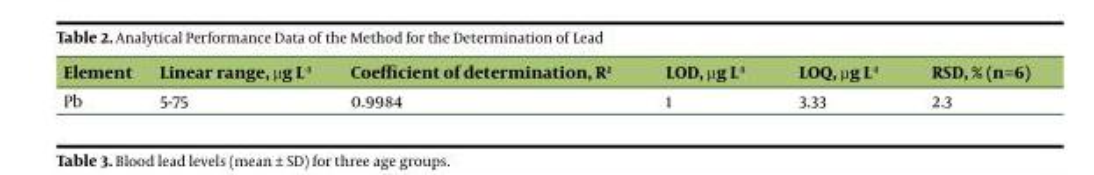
<table><thead><tr><td>Element</td><td>Linear range, µg L<sup>-1</sup></td><td>Coefficient of determination, R<sup>2</sup></td><td>LOD, µg L<sup>-1</sup></td><td>LOQ, µg L<sup>-1</sup></td><td>RSD, % (n=6)</td></tr></thead><tbody><tr><td>Pb</td><td>5-75</td><td>0.9984</td><td>1</td><td>3.33</td><td>2.3</td></tr></tbody></table>